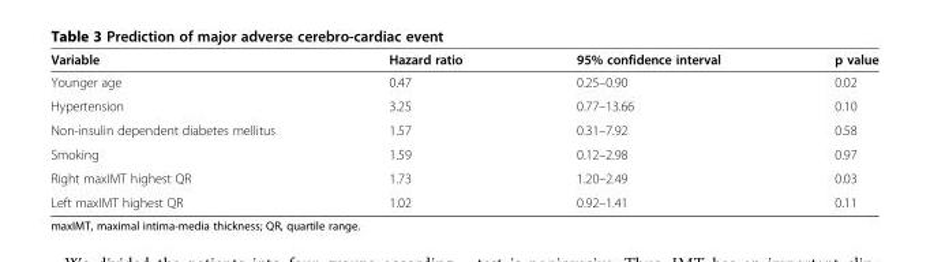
<table><thead><tr><td>Variable</td><td>Hazard ratio</td><td>95% confidence interval</td><td>p value</td></tr></thead><tbody><tr><td>Younger age</td><td>0.47</td><td>0.25–0.90</td><td>0.02</td></tr><tr><td>Hypertension</td><td>3.25</td><td>0.77–13.66</td><td>0.10</td></tr><tr><td>Non-insulin dependent diabetes mellitus</td><td>1.57</td><td>0.31–7.92</td><td>0.58</td></tr><tr><td>Smoking</td><td>1.59</td><td>0.12–2.98</td><td>0.97</td></tr><tr><td>Right maxIMT highest QR</td><td>1.73</td><td>1.20–2.49</td><td>0.03</td></tr><tr><td>Left maxIMT highest QR</td><td>1.02</td><td>0.92–1.41</td><td>0.11</td></tr></tbody></table>